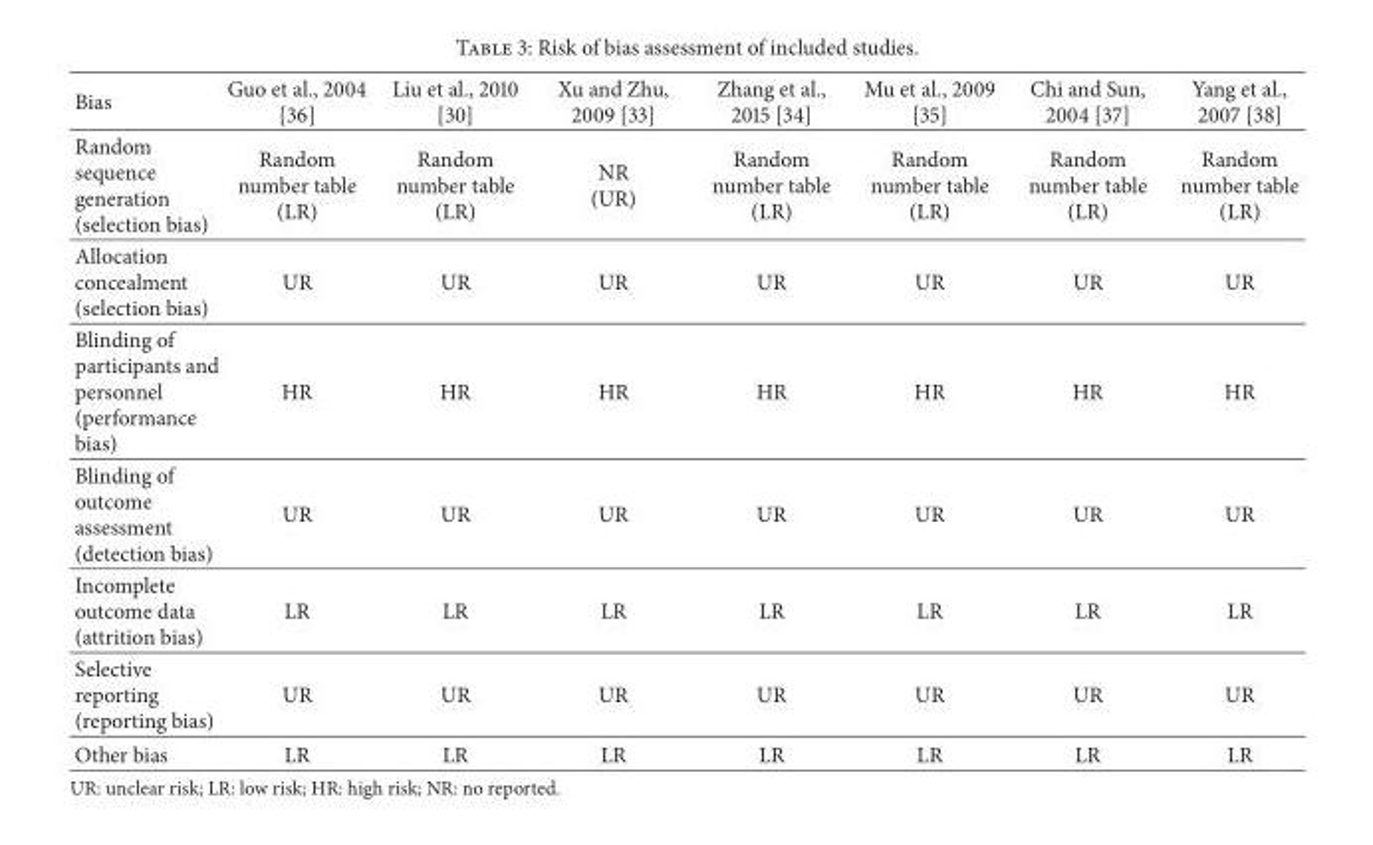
<table><thead><tr><td>Bias</td><td>Guo et al., 2004 [36]</td><td>Liu et al., 2010 [30]</td><td>Xu and Zhu, 2009 [33]</td><td>Zhang et al., 2015 [34]</td><td>Mu et al., 2009 [35]</td><td>Chi and Sun, 2004 [37]</td><td>Yang et al., 2007 [38]</td></tr></thead><tbody><tr><td>Random sequence generation (selection bias)</td><td>Random number table (LR)</td><td>Random number table (LR)</td><td>NR (UR)</td><td>Random number table (LR)</td><td>Random number table (LR)</td><td>Random number table (LR)</td><td>Random number table (LR)</td></tr><tr><td>Allocation concealment (selection bias)</td><td>UR</td><td>UR</td><td>UR</td><td>UR</td><td>UR</td><td>UR</td><td>UR</td></tr><tr><td>Blinding of participants and personnel (performance bias)</td><td>HR</td><td>HR</td><td>HR</td><td>HR</td><td>HR</td><td>HR</td><td>HR</td></tr><tr><td>Blinding of outcome assessment (detection bias)</td><td>UR</td><td>UR</td><td>UR</td><td>UR</td><td>UR</td><td>UR</td><td>UR</td></tr><tr><td>Incomplete outcome data (attrition bias)</td><td>LR</td><td>LR</td><td>LR</td><td>LR</td><td>LR</td><td>LR</td><td>LR</td></tr><tr><td>Selective reporting (reporting bias)</td><td>UR</td><td>UR</td><td>UR</td><td>UR</td><td>UR</td><td>UR</td><td>UR</td></tr><tr><td>Other bias</td><td>LR</td><td>LR</td><td>LR</td><td>LR</td><td>LR</td><td>LR</td><td>LR</td></tr></tbody></table>